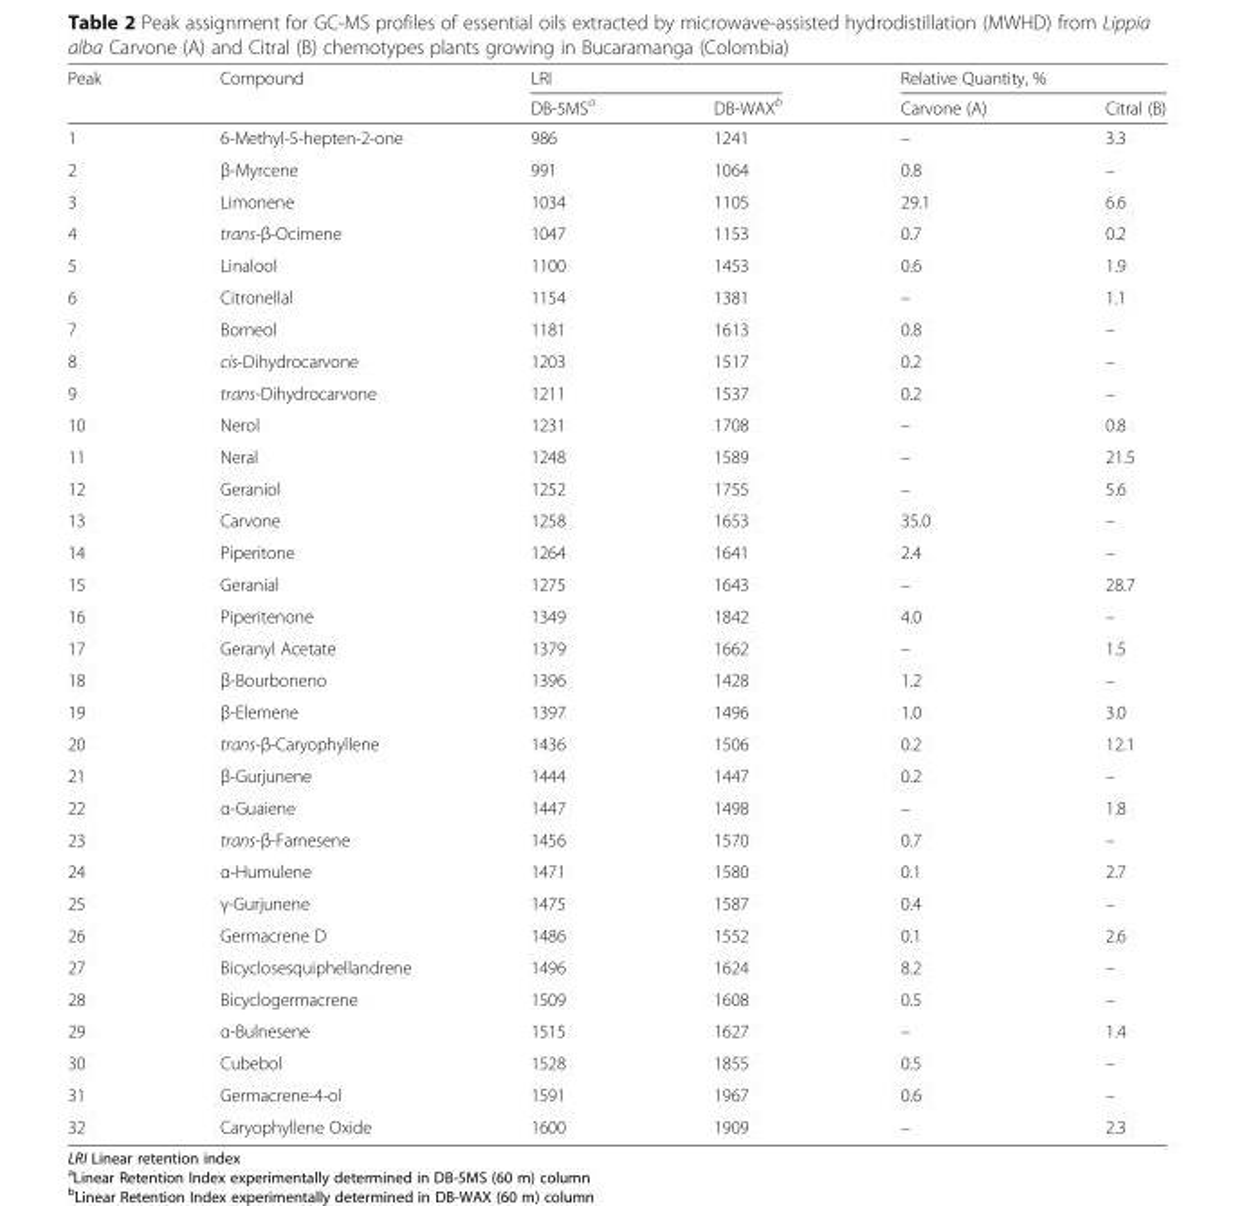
<table><thead><tr><td rowspan="2">Peak</td><td rowspan="2">Compound</td><td colspan="2">LRI</td><td colspan="2">Relative Quantity, %</td></tr><tr><td>DB-5MS<sup>a</sup></td><td>DB-WAX<sup>b</sup></td><td>Carvone (A)</td><td>Citral (B)</td></tr></thead><tbody><tr><td>1</td><td>6-Methyl-5-hepten-2-one</td><td>986</td><td>1241</td><td>–</td><td>3.3</td></tr><tr><td>2</td><td>β-Myrcene</td><td>991</td><td>1064</td><td>0.8</td><td>–</td></tr><tr><td>3</td><td>Limonene</td><td>1034</td><td>1105</td><td>29.1</td><td>6.6</td></tr><tr><td>4</td><td>trans-β-Ocimene</td><td>1047</td><td>1153</td><td>0.7</td><td>0.2</td></tr><tr><td>5</td><td>Linalool</td><td>1100</td><td>1453</td><td>0.6</td><td>1.9</td></tr><tr><td>6</td><td>Citronellal</td><td>1154</td><td>1381</td><td>–</td><td>1.1</td></tr><tr><td>7</td><td>Borneol</td><td>1181</td><td>1613</td><td>0.8</td><td>–</td></tr><tr><td>8</td><td>cis-Dihydrocarvone</td><td>1203</td><td>1517</td><td>0.2</td><td>–</td></tr><tr><td>9</td><td>trans-Dihydrocarvone</td><td>1211</td><td>1537</td><td>0.2</td><td>–</td></tr><tr><td>10</td><td>Nerol</td><td>1231</td><td>1708</td><td>–</td><td>0.8</td></tr><tr><td>11</td><td>Neral</td><td>1248</td><td>1589</td><td>–</td><td>21.5</td></tr><tr><td>12</td><td>Geraniol</td><td>1252</td><td>1755</td><td>–</td><td>5.6</td></tr><tr><td>13</td><td>Carvone</td><td>1258</td><td>1653</td><td>35.0</td><td>–</td></tr><tr><td>14</td><td>Piperitone</td><td>1264</td><td>1641</td><td>2.4</td><td>–</td></tr><tr><td>15</td><td>Geranial</td><td>1275</td><td>1643</td><td>–</td><td>28.7</td></tr><tr><td>16</td><td>Piperitenone</td><td>1349</td><td>1842</td><td>4.0</td><td>–</td></tr><tr><td>17</td><td>Geranyl Acetate</td><td>1379</td><td>1662</td><td>–</td><td>1.5</td></tr><tr><td>18</td><td>β-Bourboneno</td><td>1396</td><td>1428</td><td>1.2</td><td>–</td></tr><tr><td>19</td><td>β-Elemene</td><td>1397</td><td>1496</td><td>1.0</td><td>3.0</td></tr><tr><td>20</td><td>trans-β-Caryophyllene</td><td>1436</td><td>1506</td><td>0.2</td><td>12.1</td></tr><tr><td>21</td><td>β-Gurjunene</td><td>1444</td><td>1447</td><td>0.2</td><td>–</td></tr><tr><td>22</td><td>α-Guaiene</td><td>1447</td><td>1498</td><td>–</td><td>1.8</td></tr><tr><td>23</td><td>trans-β-Farnesene</td><td>1456</td><td>1570</td><td>0.7</td><td>–</td></tr><tr><td>24</td><td>α-Humulene</td><td>1471</td><td>1580</td><td>0.1</td><td>2.7</td></tr><tr><td>25</td><td>γ-Gurjunene</td><td>1475</td><td>1587</td><td>0.4</td><td>–</td></tr><tr><td>26</td><td>Germacrene D</td><td>1486</td><td>1552</td><td>0.1</td><td>2.6</td></tr><tr><td>27</td><td>Bicyclosesquiphellandrene</td><td>1496</td><td>1624</td><td>8.2</td><td>–</td></tr><tr><td>28</td><td>Bicyclogermacrene</td><td>1509</td><td>1608</td><td>0.5</td><td>–</td></tr><tr><td>29</td><td>α-Bulnesene</td><td>1515</td><td>1627</td><td>–</td><td>1.4</td></tr><tr><td>30</td><td>Cubebol</td><td>1528</td><td>1855</td><td>0.5</td><td>–</td></tr><tr><td>31</td><td>Germacrene-4-ol</td><td>1591</td><td>1967</td><td>0.6</td><td>–</td></tr><tr><td>32</td><td>Caryophyllene Oxide</td><td>1600</td><td>1909</td><td>–</td><td>2.3</td></tr></tbody></table>